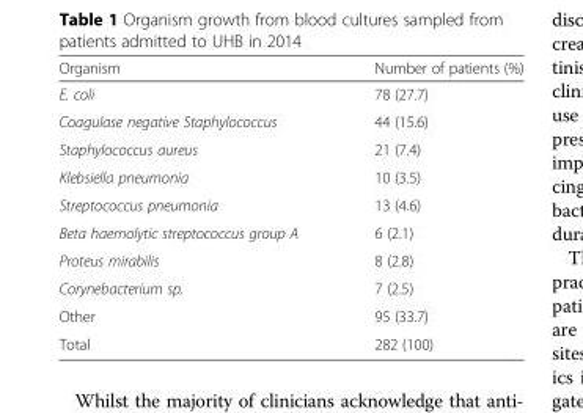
<table><thead><tr><td>Organism</td><td>Number of patients (%)</td></tr></thead><tbody><tr><td>E. coli</td><td>78 (27.7)</td></tr><tr><td>Coagulase negative Staphylococcus</td><td>44 (15.6)</td></tr><tr><td>Staphylococcus aureus</td><td>21 (7.4)</td></tr><tr><td>Klebsiella pneumonia</td><td>10 (3.5)</td></tr><tr><td>Streptococcus pneumonia</td><td>13 (4.6)</td></tr><tr><td>Beta haemolytic streptococcus group A</td><td>6 (2.1)</td></tr><tr><td>Proteus mirabilis</td><td>8 (2.8)</td></tr><tr><td>Corynebacterium sp.</td><td>7 (2.5)</td></tr><tr><td>Other</td><td>95 (33.7)</td></tr><tr><td>Total</td><td>282 (100)</td></tr></tbody></table>